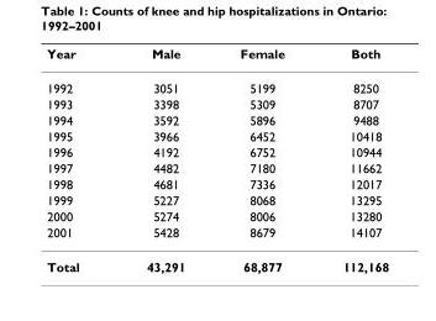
<table><thead><tr><td>Year</td><td>Male</td><td>Female</td><td>Both</td></tr></thead><tbody><tr><td>1992</td><td>3051</td><td>5199</td><td>8250</td></tr><tr><td>1993</td><td>3398</td><td>5309</td><td>8707</td></tr><tr><td>1994</td><td>3592</td><td>5896</td><td>9488</td></tr><tr><td>1995</td><td>3966</td><td>6452</td><td>10418</td></tr><tr><td>1996</td><td>4192</td><td>6752</td><td>10944</td></tr><tr><td>1997</td><td>4482</td><td>7180</td><td>11662</td></tr><tr><td>1998</td><td>4681</td><td>7336</td><td>12017</td></tr><tr><td>1999</td><td>5227</td><td>8068</td><td>13295</td></tr><tr><td>2000</td><td>5274</td><td>8006</td><td>13280</td></tr><tr><td>2001</td><td>5428</td><td>8679</td><td>14107</td></tr><tr><td>Total</td><td>43,291</td><td>68,877</td><td>112,168</td></tr></tbody></table>